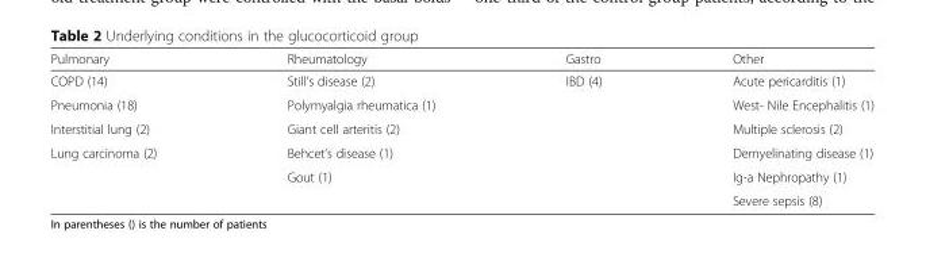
<table><thead><tr><td>Pulmonary</td><td>Rheumatology</td><td>Gastro</td><td>Other</td></tr></thead><tbody><tr><td>COPD (14)</td><td>Still’s disease (2)</td><td>IBD (4)</td><td>Acute pericarditis (1)</td></tr><tr><td>Pneumonia (18)</td><td>Polymyalgia rheumatica (1)</td><td></td><td>West- Nile Encephalitis (1)</td></tr><tr><td>Interstitial lung (2)</td><td>Giant cell arteritis (2)</td><td></td><td>Multiple sclerosis (2)</td></tr><tr><td rowspan="3">Lung carcinoma (2)</td><td>Behcet’s disease (1)</td><td></td><td>Demyelinating disease (1)</td></tr><tr><td>Gout (1)</td><td></td><td>Ig-a Nephropathy (1)</td></tr><tr><td></td><td></td><td>Severe sepsis (8)</td></tr></tbody></table>